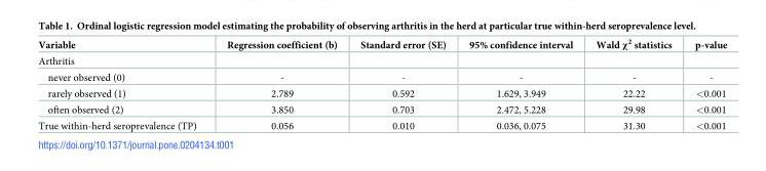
<table><thead><tr><td>Variable</td><td>Regression coefficient (b)</td><td>Standard error (SE)</td><td>95% confidence interval</td><td>Wald χ<sup>2</sup> statistics</td><td>p-value</td></tr></thead><tbody><tr><td colspan="6">Arthritis</td></tr><tr><td>never observed (0)</td><td>-</td><td>-</td><td>-</td><td>-</td><td>-</td></tr><tr><td>rarely observed (1)</td><td>2.789</td><td>0.592</td><td>1.629, 3.949</td><td>22.22</td><td>&lt;0.001</td></tr><tr><td>often observed (2)</td><td>3.850</td><td>0.703</td><td>2.472, 5.228</td><td>29.98</td><td>&lt;0.001</td></tr><tr><td>True within-herd seroprevalence (TP)</td><td>0.056</td><td>0.010</td><td>0.036, 0.075</td><td>31.30</td><td>&lt;0.001</td></tr></tbody></table>